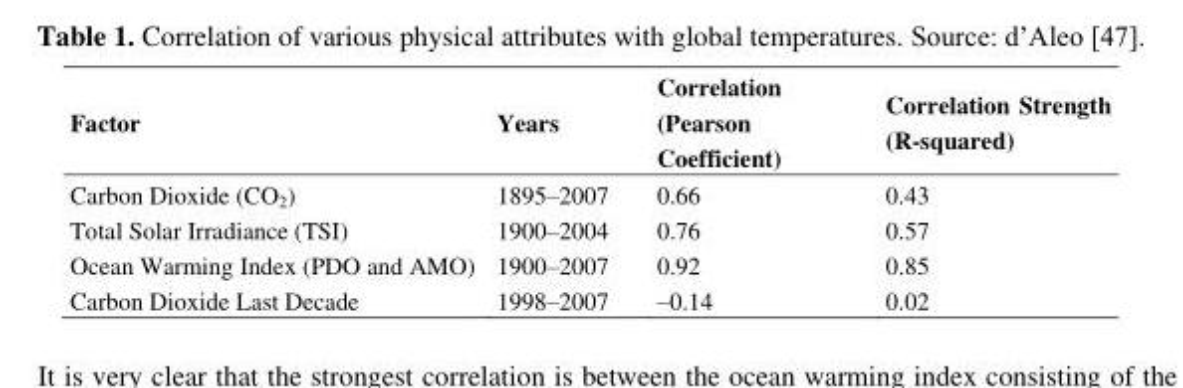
<table><thead><tr><td>Factor</td><td>Years</td><td>Correlation (Pearson Coefficient)</td><td>Correlation Strength (R-squared)</td></tr></thead><tbody><tr><td>Carbon Dioxide (CO<sub>2</sub>)</td><td>1895–2007</td><td>0.66</td><td>0.43</td></tr><tr><td>Total Solar Irradiance (TSI)</td><td>1900–2004</td><td>0.76</td><td>0.57</td></tr><tr><td>Ocean Warming Index (PDO and AMO)</td><td>1900–2007</td><td>0.92</td><td>0.85</td></tr><tr><td>Carbon Dioxide Last Decade</td><td>1998–2007</td><td>–0.14</td><td>0.02</td></tr></tbody></table>